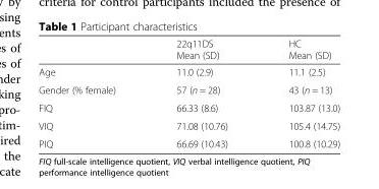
<table><thead><tr><td></td><td>22q11DS Mean (SD)</td><td>HC Mean (SD)</td></tr></thead><tbody><tr><td>Age</td><td>11.0 (2.9)</td><td>11.1 (2.5)</td></tr><tr><td>Gender (% female)</td><td>57 (n = 28)</td><td>43 (n = 13)</td></tr><tr><td>FIQ</td><td>66.33 (8.6)</td><td>103.87 (13.0)</td></tr><tr><td>VIQ</td><td>71.08 (10.76)</td><td>105.4 (14.75)</td></tr><tr><td>PIQ</td><td>66.69 (10.43)</td><td>100.8 (10.29)</td></tr></tbody></table>